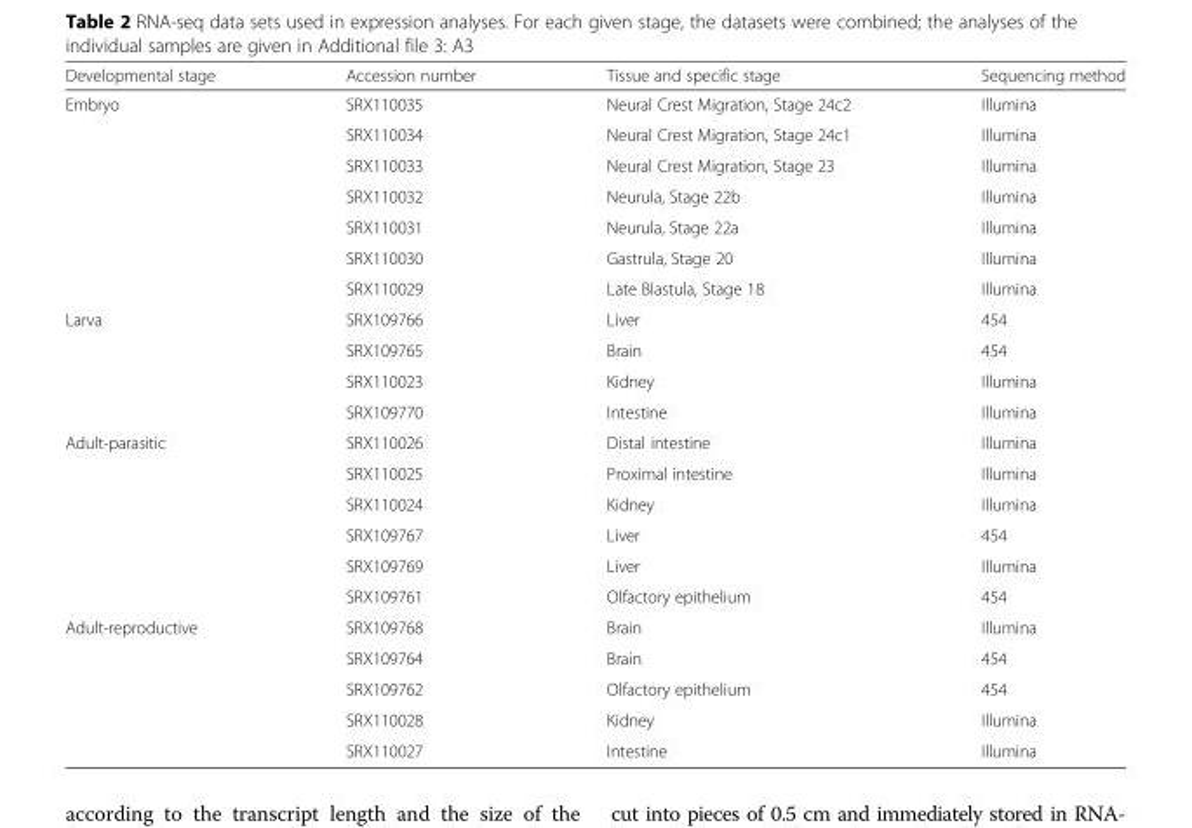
<table><thead><tr><td>Developmental stage</td><td>Accession number</td><td>Tissue and specific stage</td><td>Sequencing method</td></tr></thead><tbody><tr><td rowspan="7">Embryo</td><td>SRX110035</td><td>Neural Crest Migration, Stage 24c2</td><td>Illumina</td></tr><tr><td>SRX110034</td><td>Neural Crest Migration, Stage 24c1</td><td>Illumina</td></tr><tr><td>SRX110033</td><td>Neural Crest Migration, Stage 23</td><td>Illumina</td></tr><tr><td>SRX110032</td><td>Neurula, Stage 22b</td><td>Illumina</td></tr><tr><td>SRX110031</td><td>Neurula, Stage 22a</td><td>Illumina</td></tr><tr><td>SRX110030</td><td>Gastrula, Stage 20</td><td>Illumina</td></tr><tr><td>SRX110029</td><td>Late Blastula, Stage 18</td><td>Illumina</td></tr><tr><td rowspan="4">Larva</td><td>SRX109766</td><td>Liver</td><td>454</td></tr><tr><td>SRX109765</td><td>Brain</td><td>454</td></tr><tr><td>SRX110023</td><td>Kidney</td><td>Illumina</td></tr><tr><td>SRX109770</td><td>Intestine</td><td>Illumina</td></tr><tr><td rowspan="6">Adult-parasitic</td><td>SRX110026</td><td>Distal intestine</td><td>Illumina</td></tr><tr><td>SRX110025</td><td>Proximal intestine</td><td>Illumina</td></tr><tr><td>SRX110024</td><td>Kidney</td><td>Illumina</td></tr><tr><td>SRX109767</td><td>Liver</td><td>454</td></tr><tr><td>SRX109769</td><td>Liver</td><td>Illumina</td></tr><tr><td>SRX109761</td><td>Olfactory epithelium</td><td>454</td></tr><tr><td rowspan="5">Adult-reproductive</td><td>SRX109768</td><td>Brain</td><td>Illumina</td></tr><tr><td>SRX109764</td><td>Brain</td><td>454</td></tr><tr><td>SRX109762</td><td>Olfactory epithelium</td><td>454</td></tr><tr><td>SRX110028</td><td>Kidney</td><td>Illumina</td></tr><tr><td>SRX110027</td><td>Intestine</td><td>Illumina</td></tr></tbody></table>